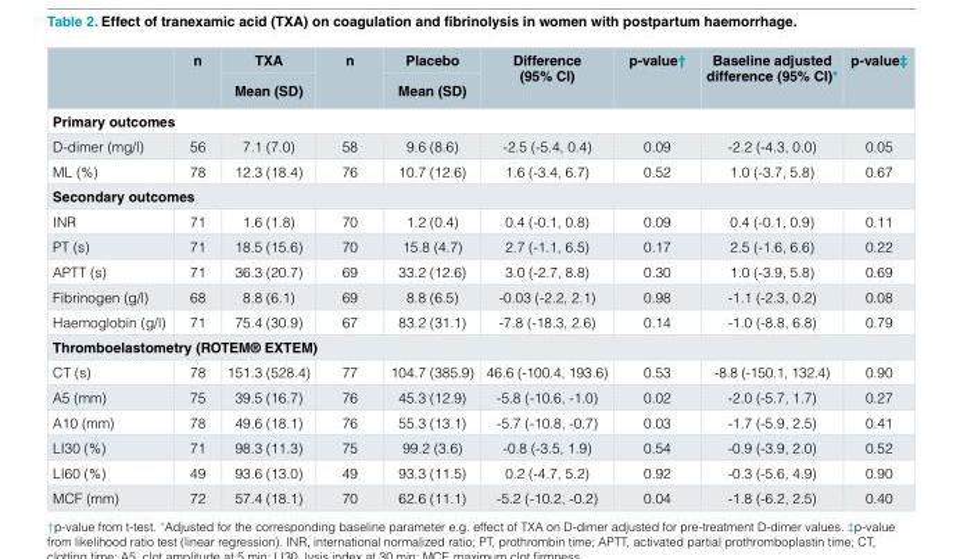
<table><thead><tr><td rowspan="2"></td><td rowspan="2">n</td><td rowspan="2">TXA Mean (SD)</td><td rowspan="2">n</td><td rowspan="2">Placebo Mean (SD)</td><td rowspan="2">Difference (95% CI)</td><td rowspan="2">p-value†</td><td rowspan="2">Baseline adjusted difference (95% CI)*</td><td rowspan="2">p-value‡</td></tr><tr></tr></thead><tbody><tr><td colspan="9">Primary outcomes</td></tr><tr><td>D-dimer (mg/l)</td><td>56</td><td>7.1 (7.0)</td><td>58</td><td>9.6 (8.6)</td><td>-2.5 (-5.4, 0.4)</td><td>0.09</td><td>-2.2 (-4.3, 0.0)</td><td>0.05</td></tr><tr><td>ML (%)</td><td>78</td><td>12.3 (18.4)</td><td>76</td><td>10.7 (12.6)</td><td>1.6 (-3.4, 6.7)</td><td>0.52</td><td>1.0 (-3.7, 5.8)</td><td>0.67</td></tr><tr><td colspan="9">Secondary outcomes</td></tr><tr><td>INR</td><td>71</td><td>1.6 (1.8)</td><td>70</td><td>1.2 (0.4)</td><td>0.4 (-0.1, 0.8)</td><td>0.09</td><td>0.4 (-0.1, 0.9)</td><td>0.11</td></tr><tr><td>PT (s)</td><td>71</td><td>18.5 (15.6)</td><td>70</td><td>15.8 (4.7)</td><td>2.7 (-1.1, 6.5)</td><td>0.17</td><td>2.5 (-1.6, 6.6)</td><td>0.22</td></tr><tr><td>APTT (s)</td><td>71</td><td>36.3 (20.7)</td><td>69</td><td>33.2 (12.6)</td><td>3.0 (-2.7, 8.8)</td><td>0.30</td><td>1.0 (-3.9, 5.8)</td><td>0.69</td></tr><tr><td>Fibrinogen (g/l)</td><td>68</td><td>8.8 (6.1)</td><td>69</td><td>8.8 (6.5)</td><td>-0.03 (-2.2, 2.1)</td><td>0.98</td><td>-1.1 (-2.3, 0.2)</td><td>0.08</td></tr><tr><td>Haemoglobin (g/l)</td><td>71</td><td>75.4 (30.9)</td><td>67</td><td>83.2 (31.1)</td><td>-7.8 (-18.3, 2.6)</td><td>0.14</td><td>-1.0 (-8.8, 6.8)</td><td>0.79</td></tr><tr><td colspan="9">Thromboelastometry (ROTEM® EXTEM)</td></tr><tr><td>CT (s)</td><td>78</td><td>151.3 (528.4)</td><td>77</td><td>104.7 (385.9)</td><td>46.6 (-100.4, 193.6)</td><td>0.53</td><td>-8.8 (-150.1, 132.4)</td><td>0.90</td></tr><tr><td>A5 (mm)</td><td>75</td><td>39.5 (16.7)</td><td>76</td><td>45.3 (12.9)</td><td>-5.8 (-10.6, -1.0)</td><td>0.02</td><td>-2.0 (-5.7, 1.7)</td><td>0.27</td></tr><tr><td>A10 (mm)</td><td>78</td><td>49.6 (18.1)</td><td>76</td><td>55.3 (13.1)</td><td>-5.7 (-10.8, -0.7)</td><td>0.03</td><td>-1.7 (-5.9, 2.5)</td><td>0.41</td></tr><tr><td>LI30 (%)</td><td>71</td><td>98.3 (11.3)</td><td>75</td><td>99.2 (3.6)</td><td>-0.8 (-3.5, 1.9)</td><td>0.54</td><td>-0.9 (-3.9, 2.0)</td><td>0.52</td></tr><tr><td>LI60 (%)</td><td>49</td><td>93.6 (13.0)</td><td>49</td><td>93.3 (11.5)</td><td>0.2 (-4.7, 5.2)</td><td>0.92</td><td>-0.3 (-5.6, 4.9)</td><td>0.90</td></tr><tr><td>MCF (mm)</td><td>72</td><td>57.4 (18.1)</td><td>70</td><td>62.6 (11.1)</td><td>-5.2 (-10.2, -0.2)</td><td>0.04</td><td>-1.8 (-6.2, 2.5)</td><td>0.40</td></tr></tbody></table>